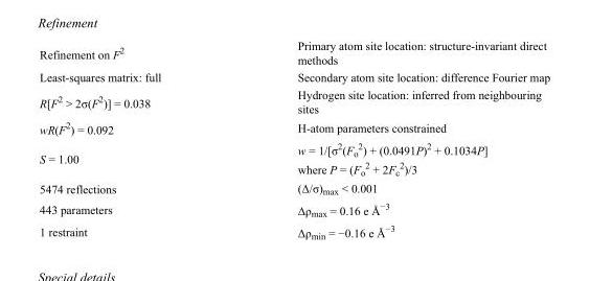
<table><tbody><tr><td>Refinement on F<sup>2</sup></td><td>Primary atom site location: structure-invariant direct methods</td></tr><tr><td>Least-squares matrix: full</td><td>Secondary atom site location: difference Fourier map</td></tr><tr><td>R[F<sup>2</sup> &gt; 2σ(F<sup>2</sup>)] = 0.038</td><td>Hydrogen site location: inferred from neighbouring sites</td></tr><tr><td>wR(F<sup>2</sup>) = 0.092</td><td>H-atom parameters constrained</td></tr><tr><td>S = 1.00</td><td>w = 1/[σ<sup>2</sup>(F<sub>o</sub> <sup>2</sup>) + (0.0491P)<sup>2</sup> + 0.1034P] where P = (F<sub>o</sub> <sup>2</sup> + 2F<sub>c</sub> <sup>2</sup>)/3</td></tr><tr><td>5474 reflections</td><td>(Δ/σ)<sub>max</sub> &lt; 0.001</td></tr><tr><td>443 parameters</td><td>Δρ<sub>max</sub> = 0.16 e Å<sup>−3</sup></td></tr><tr><td>1 restraint</td><td>Δρ<sub>min</sub> = −0.16 e Å<sup>−3</sup></td></tr></tbody></table>